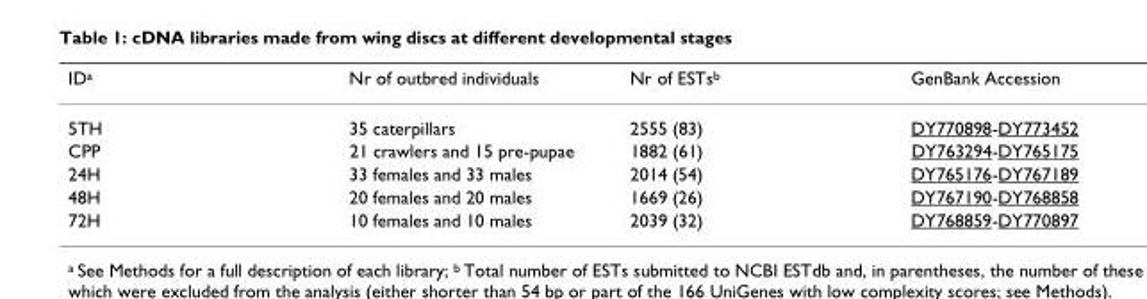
<table><thead><tr><td>ID<sup>a</sup></td><td>Nr of outbred individuals</td><td>Nr of ESTs<sup>b</sup></td><td>GenBank Accession</td></tr></thead><tbody><tr><td>5TH</td><td>35 caterpillars</td><td>2555 (83)</td><td>DY770898-DY773452</td></tr><tr><td>CPP</td><td>21 crawlers and 15 pre-pupae</td><td>1882 (61)</td><td>DY763294-DY765175</td></tr><tr><td>24H</td><td>33 females and 33 males</td><td>2014 (54)</td><td>DY765176-DY767189</td></tr><tr><td>48H</td><td>20 females and 20 males</td><td>1669 (26)</td><td>DY767190-DY768858</td></tr><tr><td>72H</td><td>10 females and 10 males</td><td>2039 (32)</td><td>DY768859-DY770897</td></tr></tbody></table>